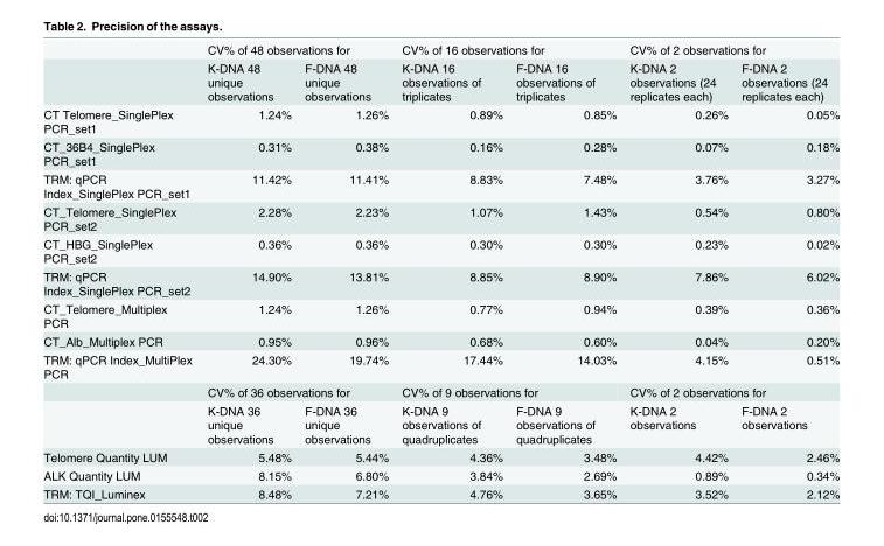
<table><thead><tr><td rowspan="2"></td><td colspan="2">CV% of 48 observations for</td><td colspan="2">CV% of 16 observations for</td><td colspan="2">CV% of 2 observations for</td></tr><tr><td>K-DNA 48 unique observations</td><td>F-DNA 48 unique observations</td><td>K-DNA 16 observations of triplicates</td><td>F-DNA 16 observations of triplicates</td><td>K-DNA 2 observations (24 replicates each)</td><td>F-DNA 2 observations (24 replicates each)</td></tr></thead><tbody><tr><td>CT Telomere_SinglePlex PCR_set1</td><td>1.24%</td><td>1.26%</td><td>0.89%</td><td>0.85%</td><td>0.26%</td><td>0.05%</td></tr><tr><td>CT_36B4_SinglePlex PCR_set1</td><td>0.31%</td><td>0.38%</td><td>0.16%</td><td>0.28%</td><td>0.07%</td><td>0.18%</td></tr><tr><td>TRM: qPCR Index_SinglePlex PCR_set1</td><td>11.42%</td><td>11.41%</td><td>8.83%</td><td>7.48%</td><td>3.76%</td><td>3.27%</td></tr><tr><td>CT_Telomere_SinglePlex PCR_set2</td><td>2.28%</td><td>2.23%</td><td>1.07%</td><td>1.43%</td><td>0.54%</td><td>0.80%</td></tr><tr><td>CT_HBG_SinglePlex PCR_set2</td><td>0.36%</td><td>0.36%</td><td>0.30%</td><td>0.30%</td><td>0.23%</td><td>0.02%</td></tr><tr><td>TRM: qPCR Index_SinglePlex PCR_set2</td><td>14.90%</td><td>13.81%</td><td>8.85%</td><td>8.90%</td><td>7.86%</td><td>6.02%</td></tr><tr><td>CT_Telomere_Multiplex PCR</td><td>1.24%</td><td>1.26%</td><td>0.77%</td><td>0.94%</td><td>0.39%</td><td>0.36%</td></tr><tr><td>CT_Alb_Multiplex PCR</td><td>0.95%</td><td>0.96%</td><td>0.68%</td><td>0.60%</td><td>0.04%</td><td>0.20%</td></tr><tr><td rowspan="3">TRM: qPCR Index_MultiPlex PCR</td><td>24.30%</td><td>19.74%</td><td>17.44%</td><td>14.03%</td><td>4.15%</td><td>0.51%</td></tr><tr><td colspan="2">CV% of 36 observations for</td><td colspan="2">CV% of 9 observations for</td><td colspan="2">CV% of 2 observations for</td></tr><tr><td>K-DNA 36 unique observations</td><td>F-DNA 36 unique observations</td><td>K-DNA 9 observations of quadruplicates</td><td>F-DNA 9 observations of quadruplicates</td><td>K-DNA 2 observations</td><td>F-DNA 2 observations</td></tr><tr><td>Telomere Quantity LUM</td><td>5.48%</td><td>5.44%</td><td>4.36%</td><td>3.48%</td><td>4.42%</td><td>2.46%</td></tr><tr><td>ALK Quantity LUM</td><td>8.15%</td><td>6.80%</td><td>3.84%</td><td>2.69%</td><td>0.89%</td><td>0.34%</td></tr><tr><td>TRM: TQI_Luminex</td><td>8.48%</td><td>7.21%</td><td>4.76%</td><td>3.65%</td><td>3.52%</td><td>2.12%</td></tr></tbody></table>